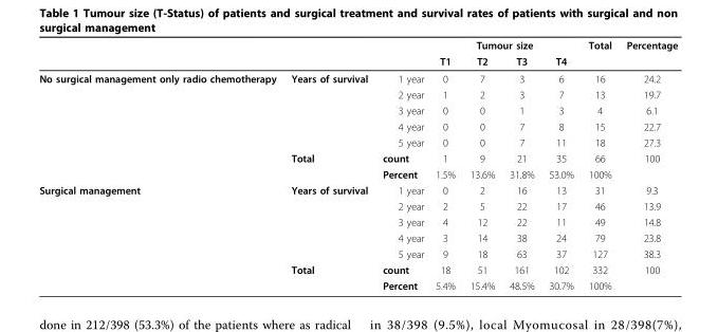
<table><thead><tr><td rowspan="2"></td><td rowspan="2"></td><td rowspan="2"></td><td colspan="4">Tumour size</td><td rowspan="2">Total</td><td rowspan="2">Percentage</td></tr><tr><td>T1</td><td>T2</td><td>T3</td><td>T4</td></tr></thead><tbody><tr><td rowspan="7">No surgical management only radio chemotherapy</td><td>Years of survival</td><td>1 year</td><td>0</td><td>7</td><td>3</td><td>6</td><td>16</td><td>24.2</td></tr><tr><td></td><td>2 year</td><td>1</td><td>2</td><td>3</td><td>7</td><td>13</td><td>19.7</td></tr><tr><td></td><td>3 year</td><td>0</td><td>0</td><td>1</td><td>3</td><td>4</td><td>6.1</td></tr><tr><td></td><td>4 year</td><td>0</td><td>0</td><td>7</td><td>8</td><td>15</td><td>22.7</td></tr><tr><td></td><td>5 year</td><td>0</td><td>0</td><td>7</td><td>11</td><td>18</td><td>27.3</td></tr><tr><td>Total</td><td>count</td><td>1</td><td>9</td><td>21</td><td>35</td><td>66</td><td>100</td></tr><tr><td></td><td>Percent</td><td>1.5%</td><td>13.6%</td><td>31.8%</td><td>53.0%</td><td>100%</td><td></td></tr><tr><td rowspan="7">Surgical management</td><td>Years of survival</td><td>1 year</td><td>0</td><td>2</td><td>16</td><td>13</td><td>31</td><td>9.3</td></tr><tr><td></td><td>2 year</td><td>2</td><td>5</td><td>22</td><td>17</td><td>46</td><td>13.9</td></tr><tr><td></td><td>3 year</td><td>4</td><td>12</td><td>22</td><td>11</td><td>49</td><td>14.8</td></tr><tr><td></td><td>4 year</td><td>3</td><td>14</td><td>38</td><td>24</td><td>79</td><td>23.8</td></tr><tr><td></td><td>5 year</td><td>9</td><td>18</td><td>63</td><td>37</td><td>127</td><td>38.3</td></tr><tr><td>Total</td><td>count</td><td>18</td><td>51</td><td>161</td><td>102</td><td>332</td><td>100</td></tr><tr><td></td><td>Percent</td><td>5.4%</td><td>15.4%</td><td>48.5%</td><td>30.7%</td><td>100%</td><td></td></tr></tbody></table>